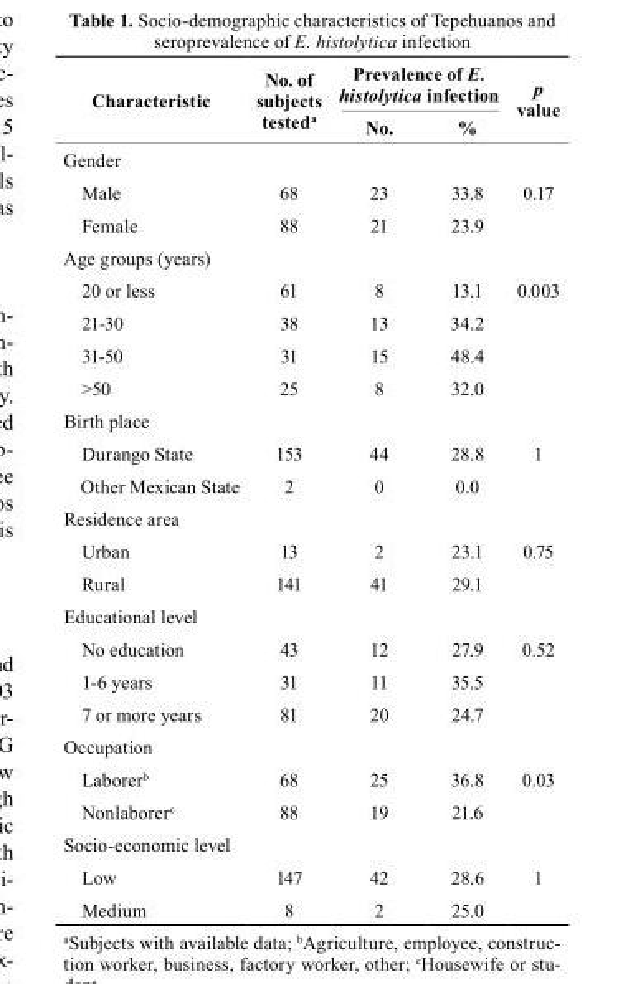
<table><thead><tr><td rowspan="2">characteristic</td><td rowspan="2">No. of subjects tested<sup>a</sup></td><td colspan="2">Prevalence of E. histolytica infection</td><td rowspan="2">p value</td></tr><tr><td>No.</td><td>%</td></tr></thead><tbody><tr><td colspan="5">Gender</td></tr><tr><td>Male</td><td>68</td><td>23</td><td>33.8</td><td>0.17</td></tr><tr><td>Female</td><td>88</td><td>21</td><td>23.9</td><td></td></tr><tr><td colspan="5">Age groups (years)</td></tr><tr><td>20 or less</td><td>61</td><td>8</td><td>13.1</td><td>0.003</td></tr><tr><td>21-30</td><td>38</td><td>13</td><td>34.2</td><td></td></tr><tr><td>31-50</td><td>31</td><td>15</td><td>48.4</td><td></td></tr><tr><td>&gt;50</td><td>25</td><td>8</td><td>32.0</td><td></td></tr><tr><td colspan="5">Birth place</td></tr><tr><td>Durango State</td><td>153</td><td>44</td><td>28.8</td><td>1</td></tr><tr><td>Other Mexican State</td><td>2</td><td>0</td><td>0.0</td><td></td></tr><tr><td colspan="5">Residence area</td></tr><tr><td>Urban</td><td>13</td><td>2</td><td>23.1</td><td>0.75</td></tr><tr><td>Rural</td><td>141</td><td>41</td><td>29.1</td><td></td></tr><tr><td colspan="5">Educational level</td></tr><tr><td>No education</td><td>43</td><td>12</td><td>27.9</td><td>0.52</td></tr><tr><td>1-6 years</td><td>31</td><td>11</td><td>35.5</td><td></td></tr><tr><td>7 or more years</td><td>81</td><td>20</td><td>24.7</td><td></td></tr><tr><td colspan="5">Occupation</td></tr><tr><td>Laborer<sup>b</sup></td><td>68</td><td>25</td><td>36.8</td><td>0.03</td></tr><tr><td>Nonlaborer<sup>c</sup></td><td>88</td><td>19</td><td>21.6</td><td></td></tr><tr><td colspan="5">Socio-economic level</td></tr><tr><td>Low</td><td>147</td><td>42</td><td>28.6</td><td>1</td></tr><tr><td>Medium</td><td>8</td><td>2</td><td>25.0</td><td></td></tr></tbody></table>